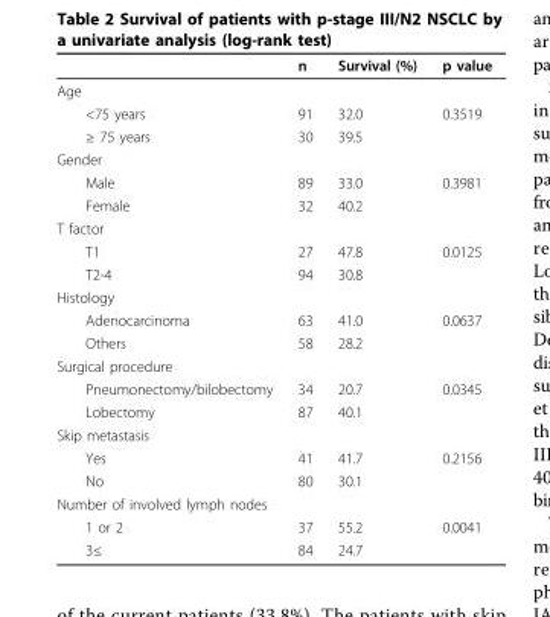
<table><thead><tr><td></td><td>n</td><td>Survival (%)</td><td>p value</td></tr></thead><tbody><tr><td colspan="4">Age</td></tr><tr><td>&lt;75 years</td><td>91</td><td>32.0</td><td>0.3519</td></tr><tr><td>≥ 75 years</td><td>30</td><td>39.5</td><td></td></tr><tr><td colspan="4">Gender</td></tr><tr><td>Male</td><td>89</td><td>33.0</td><td>0.3981</td></tr><tr><td>Female</td><td>32</td><td>40.2</td><td></td></tr><tr><td colspan="4">T factor</td></tr><tr><td>T1</td><td>27</td><td>47.8</td><td>0.0125</td></tr><tr><td>T2-4</td><td>94</td><td>30.8</td><td></td></tr><tr><td colspan="4">Histology</td></tr><tr><td>Adenocarcinoma</td><td>63</td><td>41.0</td><td>0.0637</td></tr><tr><td>Others</td><td>58</td><td>28.2</td><td></td></tr><tr><td colspan="4">Surgical procedure</td></tr><tr><td>Pneumonectomy/bilobectomy</td><td>34</td><td>20.7</td><td>0.0345</td></tr><tr><td>Lobectomy</td><td>87</td><td>40.1</td><td></td></tr><tr><td colspan="4">Skip metastasis</td></tr><tr><td>Yes</td><td>41</td><td>41.7</td><td>0.2156</td></tr><tr><td>No</td><td>80</td><td>30.1</td><td></td></tr><tr><td colspan="4">Number of involved lymph nodes</td></tr><tr><td>1 or 2</td><td>37</td><td>55.2</td><td>0.0041</td></tr><tr><td>3≤</td><td>84</td><td>24.7</td><td></td></tr></tbody></table>